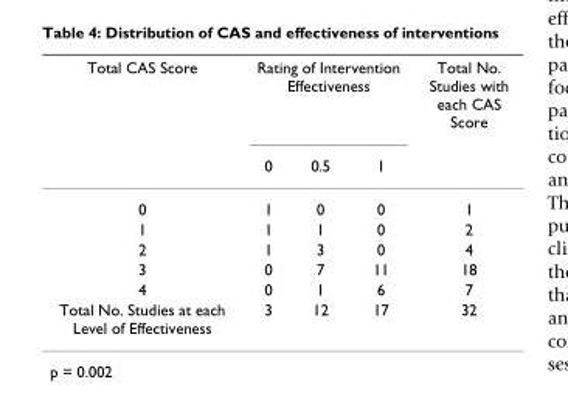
<table><thead><tr><td rowspan="2">Total CAS Score</td><td colspan="3">Rating of Intervention Effectiveness</td><td rowspan="2">Total No. Studies with each CAS Score</td></tr><tr><td>0</td><td>0.5</td><td>1</td></tr></thead><tbody><tr><td>0</td><td>1</td><td>0</td><td>0</td><td>1</td></tr><tr><td>1</td><td>1</td><td>1</td><td>0</td><td>2</td></tr><tr><td>2</td><td>1</td><td>3</td><td>0</td><td>4</td></tr><tr><td>3</td><td>0</td><td>7</td><td>11</td><td>18</td></tr><tr><td>4</td><td>0</td><td>1</td><td>6</td><td>7</td></tr><tr><td>Total No. Studies at each Level of Effectiveness</td><td>3</td><td>12</td><td>17</td><td>32</td></tr></tbody></table>